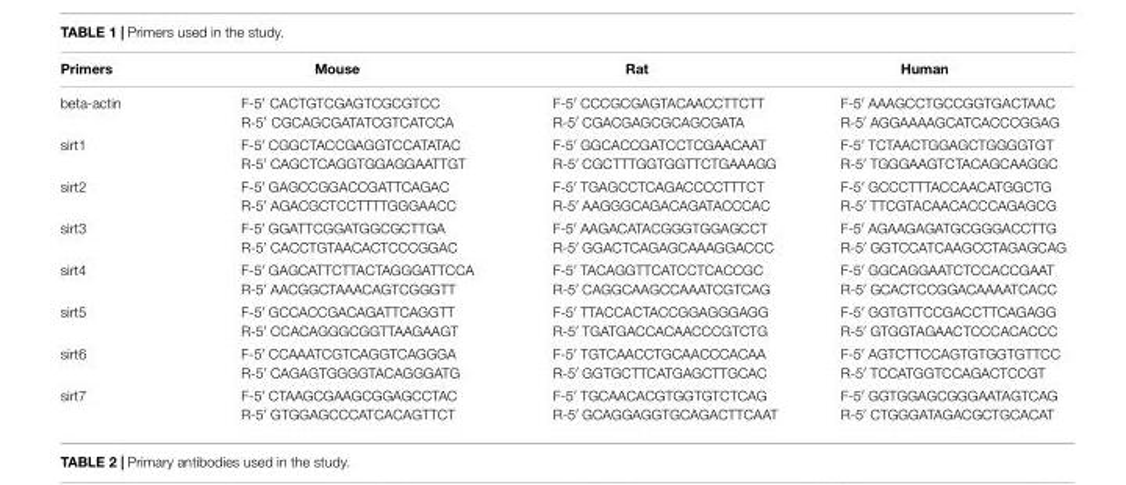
<table><thead><tr><td>Primers</td><td>Mouse</td><td>Rat</td><td>Human</td></tr></thead><tbody><tr><td>beta-actin</td><td>F-5′ CACTGTCGAGTCGCGTCC R-5′ CGCAGCGATATCGTCATCCA</td><td>F-5′ CCCGCGAGTACAACCTTCTT R-5′ CGACGAGCGCAGCGATA</td><td>F-5′ AAAGCCTGCCGGTGACTAAC R-5′ AGGAAAAGCATCACCCGGAG</td></tr><tr><td>sirt1</td><td>F-5′ CGGCTACCGAGGTCCATATAC R-5′ CAGCTCAGGTGGAGGAATTGT</td><td>F-5′ GGCACCGATCCTCGAACAAT R-5′ CGCTTTGGTGGTTCTGAAAGG</td><td>F-5′ TCTAACTGGAGCTGGGGTGT R-5′ TGGGAAGTCTACAGCAAGGC</td></tr><tr><td>sirt2</td><td>F-5′ GAGCCGGACCGATTCAGAC R-5′ AGACGCTCCTTTTGGGAACC</td><td>F-5′ TGAGCCTCAGACCCCTTTCT R-5′ AAGGGCAGACAGATACCCAC</td><td>F-5′ GCCCTTTACCAACATGGCTG R-5′ TTCGTACAACACCCAGAGCG</td></tr><tr><td>sirt3</td><td>F-5′ GGATTCGGATGGCGCTTGA R-5′ CACCTGTAACACTCCCGGAC</td><td>F-5′ AAGACATACGGGTGGAGCCT R-5′ GGACTCAGAGCAAAGGACCC</td><td>F-5′ AGAAGAGATGCGGGACCTTG R-5′ GGTCCATCAAGCCTAGAGCAG</td></tr><tr><td>sirt4</td><td>F-5′ GAGCATTCTTACTAGGGATTCCA R-5′ AACGGCTAAACAGTCGGGTT</td><td>F-5′ TACAGGTTCATCCTCACCGC R-5′ CAGGCAAGCCAAATCGTCAG</td><td>F-5′ GGCAGGAATCTCCACCGAAT R-5′ GCACTCCGGACAAAATCACC</td></tr><tr><td>sirt5</td><td>F-5′ GCCACCGACAGATTCAGGTT R-5′ CCACAGGGCGGTTAAGAAGT</td><td>F-5′ TTACCACTACCGGAGGGAGG R-5′ TGATGACCACAACCCGTCTG</td><td>F-5′ GGTGTTCCGACCTTCAGAGG R-5′ GTGGTAGAACTCCCACACCC</td></tr><tr><td>sirt6</td><td>F-5′ CCAAATCGTCAGGTCAGGGA R-5′ CAGAGTGGGGTACAGGGATG</td><td>F-5′ TGTCAACCTGCAACCCACAA R-5′ GGTGCTTCATGAGCTTGCAC</td><td>F-5′ AGTCTTCCAGTGTGGTGTTCC R-5′ TCCATGGTCCAGACTCCGT</td></tr><tr><td>sirt7</td><td>F-5′ CTAAGCGAAGCGGAGCCTAC R-5′ GTGGAGCCCATCACAGTTCT</td><td>F-5′ TGCAACACGTGGTGTCTCAG R-5′ GCAGGAGGTGCAGACTTCAAT</td><td>F-5′ GGTGGAGCGGGAATAGTCAG R-5′ CTGGGATAGACGCTGCACAT</td></tr></tbody></table>